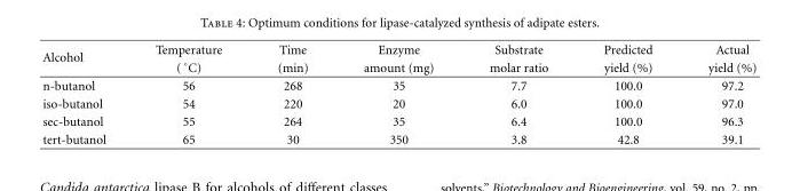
<table><thead><tr><td rowspan="2">Alcohol</td><td rowspan="2">Temperature ( ◦C)</td><td rowspan="2">Time (min)</td><td rowspan="2">Enzyme amount (mg)</td><td rowspan="2">Substrate molar ratio</td><td rowspan="2">Predicted yield (%)</td><td rowspan="2">Actual yield (%)</td></tr><tr></tr></thead><tbody><tr><td>n-butanol</td><td>56</td><td>268</td><td>35</td><td>7.7</td><td>100.0</td><td>97.2</td></tr><tr><td>iso-butanol</td><td>54</td><td>220</td><td>20</td><td>6.0</td><td>100.0</td><td>97.0</td></tr><tr><td>sec-butanol</td><td>55</td><td>264</td><td>35</td><td>6.4</td><td>100.0</td><td>96.3</td></tr><tr><td>tert-butanol</td><td>65</td><td>30</td><td>350</td><td>3.8</td><td>42.8</td><td>39.1</td></tr></tbody></table>